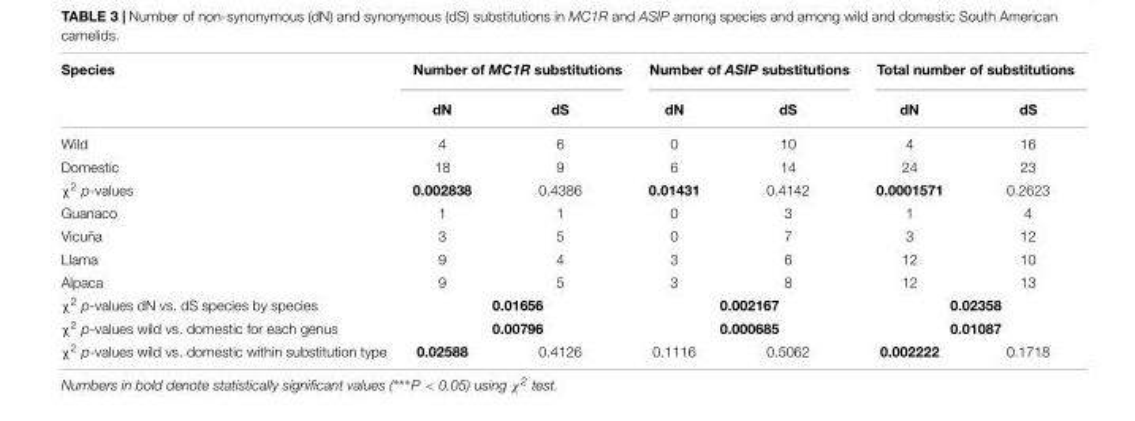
<table><thead><tr><td rowspan="2">Species</td><td colspan="2">Number of MC1R substitutions</td><td colspan="2">Number of ASIP substitutions</td><td colspan="2">Total number of substitutions</td></tr><tr><td>dN</td><td>dS</td><td>dN</td><td>dS</td><td>dN</td><td>dS</td></tr></thead><tbody><tr><td>Wild</td><td>4</td><td>6</td><td>0</td><td>10</td><td>4</td><td>16</td></tr><tr><td>Domestic</td><td>18</td><td>9</td><td>6</td><td>14</td><td>24</td><td>23</td></tr><tr><td>χ<sup>2</sup> p-values</td><td>0.002838</td><td>0.4386</td><td>0.01431</td><td>0.4142</td><td>0.0001571</td><td>0.2623</td></tr><tr><td>Guanaco</td><td>1</td><td>1</td><td>0</td><td>3</td><td>1</td><td>4</td></tr><tr><td>Vicuña</td><td>3</td><td>5</td><td>0</td><td>7</td><td>3</td><td>12</td></tr><tr><td>Llama</td><td>9</td><td>4</td><td>3</td><td>6</td><td>12</td><td>10</td></tr><tr><td>Alpaca</td><td>9</td><td>5</td><td>3</td><td>8</td><td>12</td><td>13</td></tr><tr><td>χ<sup>2</sup> p-values dN vs. dS species by species</td><td colspan="2">0.01656</td><td colspan="2">0.002167</td><td colspan="2">0.02358</td></tr><tr><td>χ<sup>2</sup> p-values wild vs. domestic for each genus</td><td colspan="2">0.00796</td><td colspan="2">0.000685</td><td colspan="2">0.01087</td></tr><tr><td>χ<sup>2</sup> p-values wild vs. domestic within substitution type</td><td>0.02588</td><td>0.4126</td><td>0.1116</td><td>0.5062</td><td>0.002222</td><td>0.1718</td></tr></tbody></table>